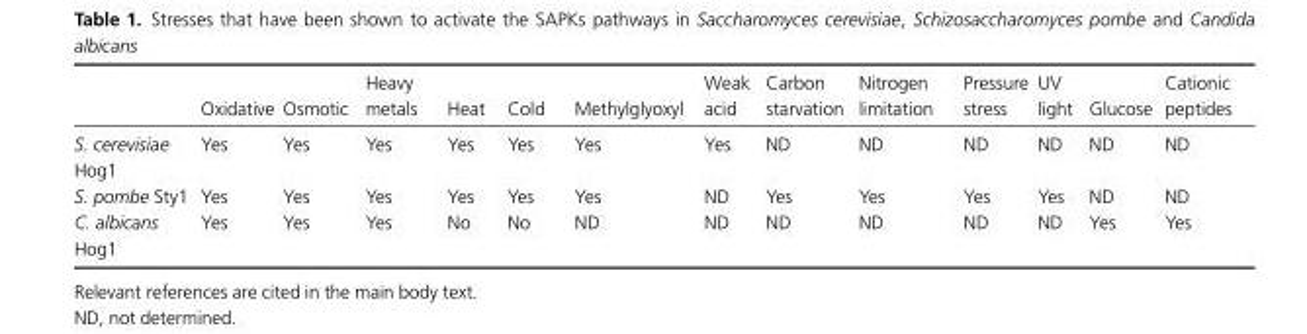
<table><thead><tr><td></td><td>Oxidative</td><td>Osmotic</td><td>Heavy metals</td><td>Heat</td><td>Cold</td><td>Methylglyoxyl</td><td>Weak acid</td><td>Carbon starvation</td><td>Nitrogen limitation</td><td>Pressure stress</td><td>UV light</td><td>Glucose</td><td>Cationic peptides</td></tr></thead><tbody><tr><td>S. cerevisiae Hog1</td><td>Yes</td><td>Yes</td><td>Yes</td><td>Yes</td><td>Yes</td><td>Yes</td><td>Yes</td><td>ND</td><td>ND</td><td>ND</td><td>ND</td><td>ND</td><td>ND</td></tr><tr><td>S. pombe Sty1</td><td>Yes</td><td>Yes</td><td>Yes</td><td>Yes</td><td>Yes</td><td>Yes</td><td>ND</td><td>Yes</td><td>Yes</td><td>Yes</td><td>Yes</td><td>ND</td><td>ND</td></tr><tr><td>C. albicans Hog1</td><td>Yes</td><td>Yes</td><td>Yes</td><td>No</td><td>No</td><td>ND</td><td>ND</td><td>ND</td><td>ND</td><td>ND</td><td>ND</td><td>Yes</td><td>Yes</td></tr></tbody></table>